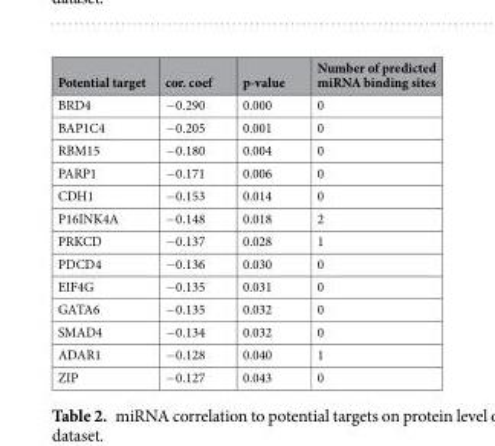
<table><thead><tr><td>Potential target</td><td>cor. coef</td><td>p-value</td><td>Number of predicted miRNA binding sites</td></tr></thead><tbody><tr><td>BRD4</td><td>−0.290</td><td>0.000</td><td>0</td></tr><tr><td>BAP1C4</td><td>−0.205</td><td>0.001</td><td>0</td></tr><tr><td>RBM15</td><td>−0.180</td><td>0.004</td><td>0</td></tr><tr><td>PARP1</td><td>−0.171</td><td>0.006</td><td>0</td></tr><tr><td>CDH1</td><td>−0.153</td><td>0.014</td><td>0</td></tr><tr><td>P16INK4A</td><td>−0.148</td><td>0.018</td><td>2</td></tr><tr><td>PRKCD</td><td>−0.137</td><td>0.028</td><td>1</td></tr><tr><td>PDCD4</td><td>−0.136</td><td>0.030</td><td>0</td></tr><tr><td>EIF4G</td><td>−0.135</td><td>0.031</td><td>0</td></tr><tr><td>GATA6</td><td>−0.135</td><td>0.032</td><td>0</td></tr><tr><td>SMAD4</td><td>−0.134</td><td>0.032</td><td>0</td></tr><tr><td>ADAR1</td><td>−0.128</td><td>0.040</td><td>1</td></tr><tr><td>ZIP</td><td>−0.127</td><td>0.043</td><td>0</td></tr></tbody></table>